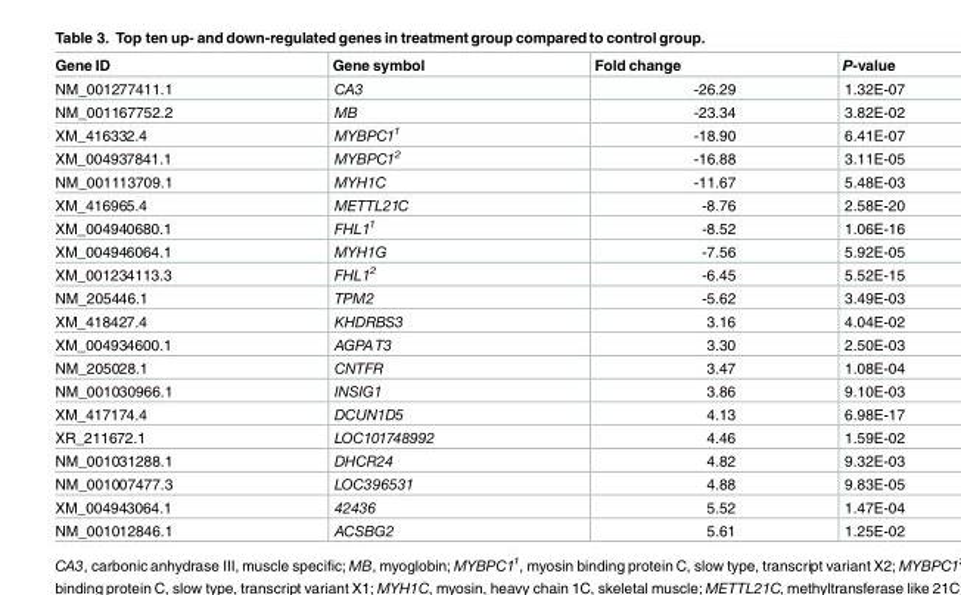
<table><thead><tr><td>Gene ID</td><td>Gene symbol</td><td>Fold change</td><td>P-value</td></tr></thead><tbody><tr><td>NM_001277411.1</td><td>CA3</td><td>-26.29</td><td>1.32E-07</td></tr><tr><td>NM_001167752.2</td><td>MB</td><td>-23.34</td><td>3.82E-02</td></tr><tr><td>XM_416332.4</td><td>MYBPC1<sup>1</sup></td><td>-18.90</td><td>6.41E-07</td></tr><tr><td>XM_004937841.1</td><td>MYBPC1<sup>2</sup></td><td>-16.88</td><td>3.11E-05</td></tr><tr><td>NM_001113709.1</td><td>MYH1C</td><td>-11.67</td><td>5.48E-03</td></tr><tr><td>XM_416965.4</td><td>METTL21C</td><td>-8.76</td><td>2.58E-20</td></tr><tr><td>XM_004940680.1</td><td>FHL1<sup>1</sup></td><td>-8.52</td><td>1.06E-16</td></tr><tr><td>XM_004946064.1</td><td>MYH1G</td><td>-7.56</td><td>5.92E-05</td></tr><tr><td>XM_001234113.3</td><td>FHL1<sup>2</sup></td><td>-6.45</td><td>5.52E-15</td></tr><tr><td>NM_205446.1</td><td>TPM2</td><td>-5.62</td><td>3.49E-03</td></tr><tr><td>XM_418427.4</td><td>KHDRBS3</td><td>3.16</td><td>4.04E-02</td></tr><tr><td>XM_004934600.1</td><td>AGPAT3</td><td>3.30</td><td>2.50E-03</td></tr><tr><td>NM_205028.1</td><td>CNTFR</td><td>3.47</td><td>1.08E-04</td></tr><tr><td>NM_001030966.1</td><td>INSIG1</td><td>3.86</td><td>9.10E-03</td></tr><tr><td>XM_417174.4</td><td>DCUN1D5</td><td>4.13</td><td>6.98E-17</td></tr><tr><td>XR_211672.1</td><td>LOC101748992</td><td>4.46</td><td>1.59E-02</td></tr><tr><td>NM_001031288.1</td><td>DHCR24</td><td>4.82</td><td>9.32E-03</td></tr><tr><td>NM_001007477.3</td><td>LOC396531</td><td>4.88</td><td>9.83E-05</td></tr><tr><td>XM_004943064.1</td><td>42436</td><td>5.52</td><td>1.47E-04</td></tr><tr><td>NM_001012846.1</td><td>ACSBG2</td><td>5.61</td><td>1.25E-02</td></tr></tbody></table>